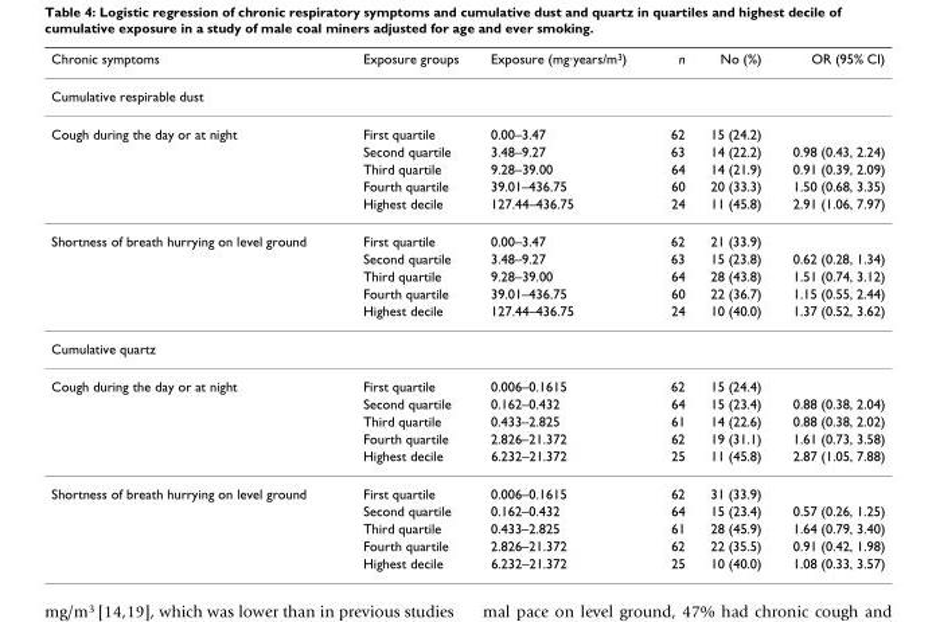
<table><thead><tr><td>Chronic symptoms</td><td>Exposure groups</td><td>Exposure (mg·years/m<sup>3</sup>)</td><td>n</td><td>No (%)</td><td>OR (95% CI)</td></tr></thead><tbody><tr><td colspan="6">Cumulative respirable dust</td></tr><tr><td rowspan="5">Cough during the day or at night</td><td>First quartile</td><td>0.00–3.47</td><td>62</td><td>15 (24.2)</td><td></td></tr><tr><td>Second quartile</td><td>3.48–9.27</td><td>63</td><td>14 (22.2)</td><td>0.98 (0.43, 2.24)</td></tr><tr><td>Third quartile</td><td>9.28–39.00</td><td>64</td><td>14 (21.9)</td><td>0.91 (0.39, 2.09)</td></tr><tr><td>Fourth quartile</td><td>39.01–436.75</td><td>60</td><td>20 (33.3)</td><td>1.50 (0.68, 3.35)</td></tr><tr><td>Highest decile</td><td>127.44–436.75</td><td>24</td><td>11 (45.8)</td><td>2.91 (1.06, 7.97)</td></tr><tr><td rowspan="5">Shortness of breath hurrying on level ground</td><td>First quartile</td><td>0.00–3.47</td><td>62</td><td>21 (33.9)</td><td></td></tr><tr><td>Second quartile</td><td>3.48–9.27</td><td>63</td><td>15 (23.8)</td><td>0.62 (0.28, 1.34)</td></tr><tr><td>Third quartile</td><td>9.28–39.00</td><td>64</td><td>28 (43.8)</td><td>1.51 (0.74, 3.12)</td></tr><tr><td>Fourth quartile</td><td>39.01–436.75</td><td>60</td><td>22 (36.7)</td><td>1.15 (0.55, 2.44)</td></tr><tr><td>Highest decile</td><td>127.44–436.75</td><td>24</td><td>10 (40.0)</td><td>1.37 (0.52, 3.62)</td></tr><tr><td colspan="6">Cumulative quartz</td></tr><tr><td rowspan="5">Cough during the day or at night</td><td>First quartile</td><td>0.006–0.1615</td><td>62</td><td>15 (24.4)</td><td></td></tr><tr><td>Second quartile</td><td>0.162–0.432</td><td>64</td><td>15 (23.4)</td><td>0.88 (0.38, 2.04)</td></tr><tr><td>Third quartile</td><td>0.433–2.825</td><td>61</td><td>14 (22.6)</td><td>0.88 (0.38, 2.02)</td></tr><tr><td>Fourth quartile</td><td>2.826–21.372</td><td>62</td><td>19 (31.1)</td><td>1.61 (0.73, 3.58)</td></tr><tr><td>Highest decile</td><td>6.232–21.372</td><td>25</td><td>11 (45.8)</td><td>2.87 (1.05, 7.88)</td></tr><tr><td rowspan="5">Shortness of breath hurrying on level ground</td><td>First quartile</td><td>0.006–0.1615</td><td>62</td><td>31 (33.9)</td><td></td></tr><tr><td>Second quartile</td><td>0.162–0.432</td><td>64</td><td>15 (23.4)</td><td>0.57 (0.26, 1.25)</td></tr><tr><td>Third quartile</td><td>0.433–2.825</td><td>61</td><td>28 (45.9)</td><td>1.64 (0.79, 3.40)</td></tr><tr><td>Fourth quartile</td><td>2.826–21.372</td><td>62</td><td>22 (35.5)</td><td>0.91 (0.42, 1.98)</td></tr><tr><td>Highest decile</td><td>6.232–21.372</td><td>25</td><td>10 (40.0)</td><td>1.08 (0.33, 3.57)</td></tr></tbody></table>